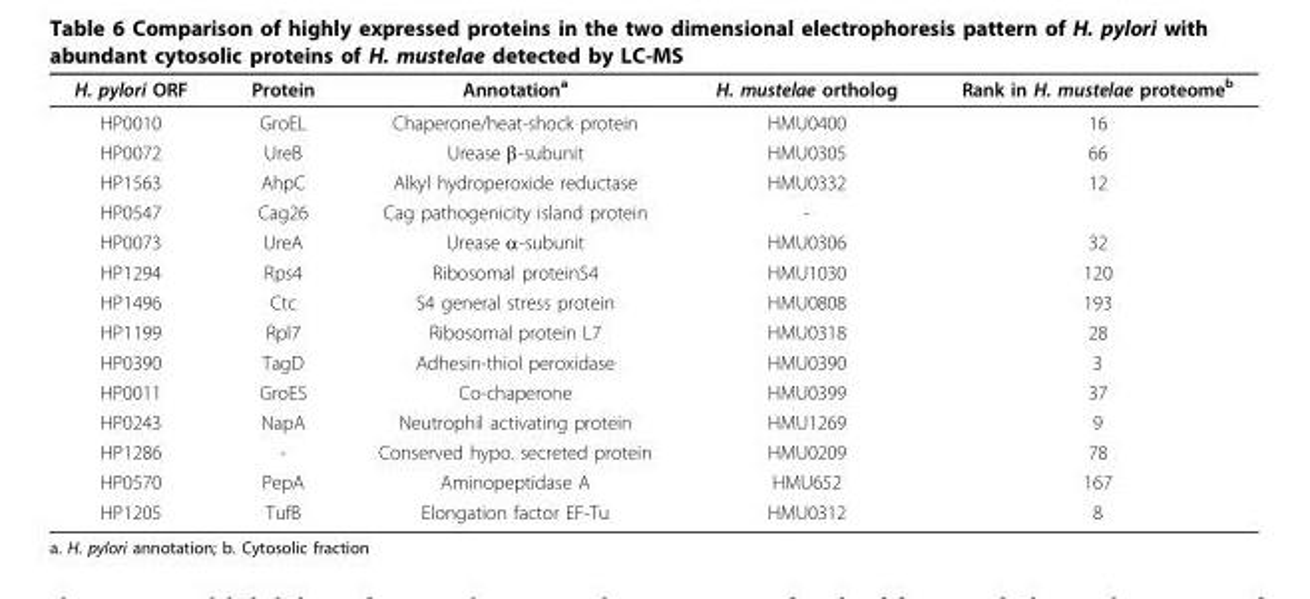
<table><thead><tr><td>H. pylori ORF</td><td>Protein</td><td>Annotation<sup>a</sup></td><td>H. mustelae ortholog</td><td>Rank in H. mustelae proteome<sup>b</sup></td></tr></thead><tbody><tr><td>HP0010</td><td>GroEL</td><td>Chaperone/heat-shock protein</td><td>HMU0400</td><td>16</td></tr><tr><td>HP0072</td><td>UreB</td><td>Urease β-subunit</td><td>HMU0305</td><td>66</td></tr><tr><td>HP1563</td><td>AhpC</td><td>Alkyl hydroperoxide reductase</td><td>HMU0332</td><td>12</td></tr><tr><td>HP0547</td><td>Cag26</td><td>Cag pathogenicity island protein</td><td>-</td><td></td></tr><tr><td>HP0073</td><td>UreA</td><td>Urease α-subunit</td><td>HMU0306</td><td>32</td></tr><tr><td>HP1294</td><td>Rps4</td><td>Ribosomal proteinS4</td><td>HMU1030</td><td>120</td></tr><tr><td>HP1496</td><td>Ctc</td><td>S4 general stress protein</td><td>HMU0808</td><td>193</td></tr><tr><td>HP1199</td><td>Rpl7</td><td>Ribosomal protein L7</td><td>HMU0318</td><td>28</td></tr><tr><td>HP0390</td><td>TagD</td><td>Adhesin-thiol peroxidase</td><td>HMU0390</td><td>3</td></tr><tr><td>HP0011</td><td>GroES</td><td>Co-chaperone</td><td>HMU0399</td><td>37</td></tr><tr><td>HP0243</td><td>NapA</td><td>Neutrophil activating protein</td><td>HMU1269</td><td>9</td></tr><tr><td>HP1286</td><td>-</td><td>Conserved hypo. secreted protein</td><td>HMU0209</td><td>78</td></tr><tr><td>HP0570</td><td>PepA</td><td>Aminopeptidase A</td><td>HMU652</td><td>167</td></tr><tr><td>HP1205</td><td>TufB</td><td>Elongation factor EF-Tu</td><td>HMU0312</td><td>8</td></tr></tbody></table>